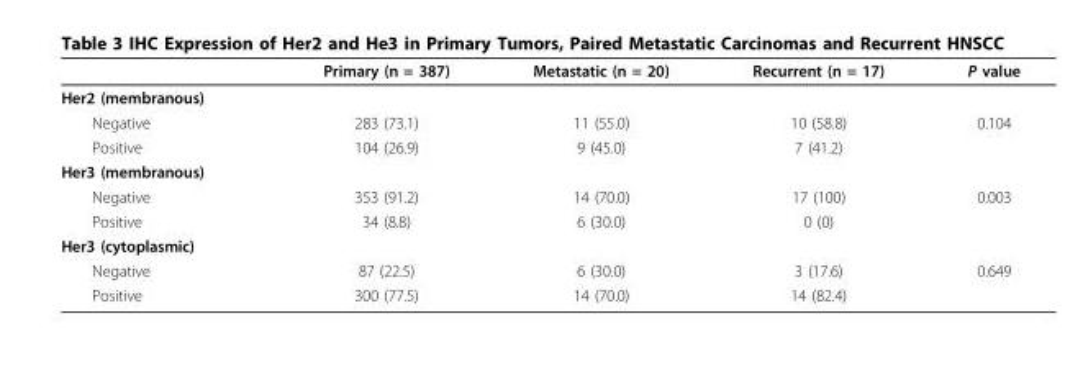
<table><thead><tr><td></td><td>Primary (n = 387)</td><td>Metastatic (n = 20)</td><td>Recurrent (n = 17)</td><td>P value</td></tr></thead><tbody><tr><td colspan="5">Her2 (membranous)</td></tr><tr><td>Negative</td><td>283 (73.1)</td><td>11 (55.0)</td><td>10 (58.8)</td><td>0.104</td></tr><tr><td>Positive</td><td>104 (26.9)</td><td>9 (45.0)</td><td>7 (41.2)</td><td></td></tr><tr><td colspan="5">Her3 (membranous)</td></tr><tr><td>Negative</td><td>353 (91.2)</td><td>14 (70.0)</td><td>17 (100)</td><td>0.003</td></tr><tr><td>Positive</td><td>34 (8.8)</td><td>6 (30.0)</td><td>0 (0)</td><td></td></tr><tr><td colspan="5">Her3 (cytoplasmic)</td></tr><tr><td>Negative</td><td>87 (22.5)</td><td>6 (30.0)</td><td>3 (17.6)</td><td>0.649</td></tr><tr><td>Positive</td><td>300 (77.5)</td><td>14 (70.0)</td><td>14 (82.4)</td><td></td></tr></tbody></table>